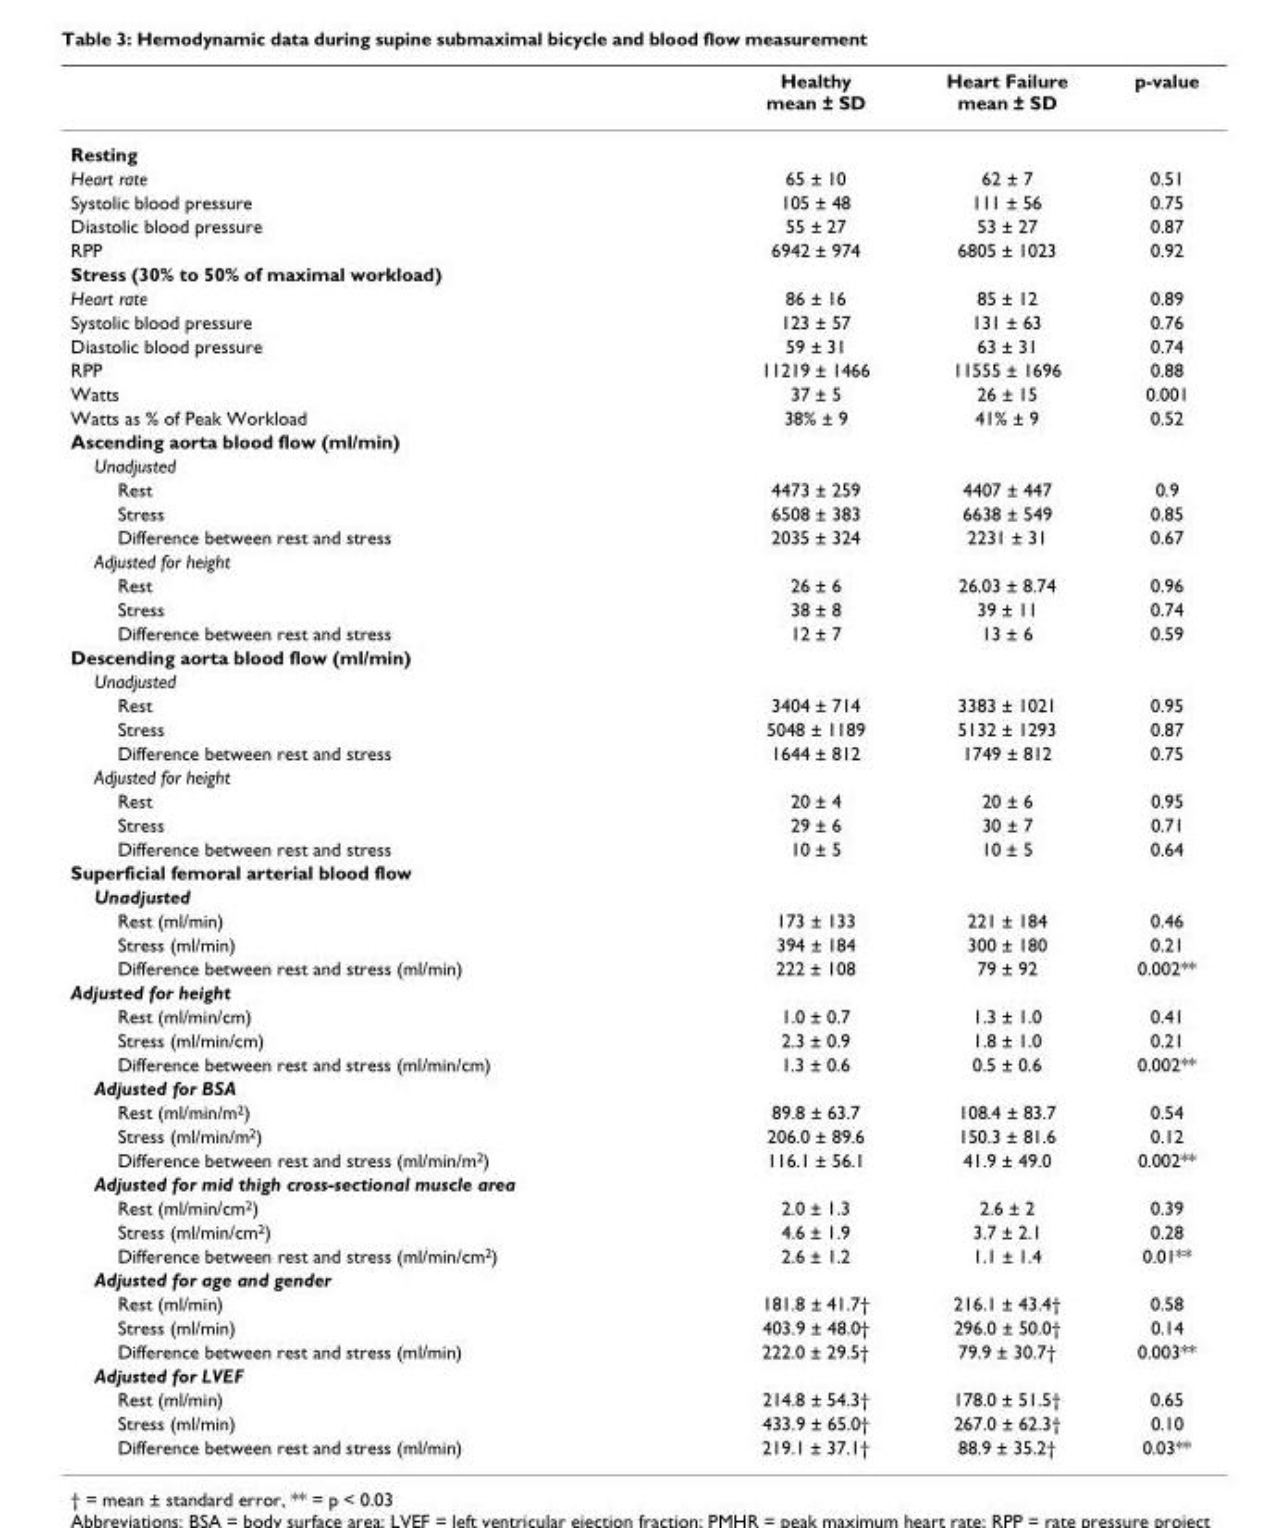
<table><thead><tr><td></td><td>Healthy mean ± SD</td><td>Heart Failure mean ± SD</td><td>p-value</td></tr></thead><tbody><tr><td colspan="4">Resting</td></tr><tr><td>Heart rate</td><td>65 ± 10</td><td>62 ± 7</td><td>0.51</td></tr><tr><td>Systolic blood pressure</td><td>105 ± 48</td><td>111 ± 56</td><td>0.75</td></tr><tr><td>Diastolic blood pressure</td><td>55 ± 27</td><td>53 ± 27</td><td>0.87</td></tr><tr><td>RPP</td><td>6942 ± 974</td><td>6805 ± 1023</td><td>0.92</td></tr><tr><td colspan="4">Stress (30% to 50% of maximal workload)</td></tr><tr><td>Heart rate</td><td>86 ± 16</td><td>85 ± 12</td><td>0.89</td></tr><tr><td>Systolic blood pressure</td><td>123 ± 57</td><td>131 ± 63</td><td>0.76</td></tr><tr><td>Diastolic blood pressure</td><td>59 ± 31</td><td>63 ± 31</td><td>0.74</td></tr><tr><td>RPP</td><td>11219 ± 1466</td><td>11555 ± 1696</td><td>0.88</td></tr><tr><td>Watts</td><td>37 ± 5</td><td>26 ± 15</td><td>0.001</td></tr><tr><td>Watts as % of Peak Workload</td><td>38% ± 9</td><td>41% ± 9</td><td>0.52</td></tr><tr><td colspan="4">Ascending aorta blood flow (ml/min)</td></tr><tr><td colspan="4">Unadjusted</td></tr><tr><td>Rest</td><td>4473 ± 259</td><td>4407 ± 447</td><td>0.9</td></tr><tr><td>Stress</td><td>6508 ± 383</td><td>6638 ± 549</td><td>0.85</td></tr><tr><td>Difference between rest and stress</td><td>2035 ± 324</td><td>2231 ± 31</td><td>0.67</td></tr><tr><td colspan="4">Adjusted for height</td></tr><tr><td>Rest</td><td>26 ± 6</td><td>26.03 ± 8.74</td><td>0.96</td></tr><tr><td>Stress</td><td>38 ± 8</td><td>39 ± 11</td><td>0.74</td></tr><tr><td>Difference between rest and stress</td><td>12 ± 7</td><td>13 ± 6</td><td>0.59</td></tr><tr><td colspan="4">Descending aorta blood flow (ml/min)</td></tr><tr><td colspan="4">Unadjusted</td></tr><tr><td>Rest</td><td>3404 ± 714</td><td>3383 ± 1021</td><td>0.95</td></tr><tr><td>Stress</td><td>5048 ± 1189</td><td>5132 ± 1293</td><td>0.87</td></tr><tr><td>Difference between rest and stress</td><td>1644 ± 812</td><td>1749 ± 812</td><td>0.75</td></tr><tr><td colspan="4">Adjusted for height</td></tr><tr><td>Rest</td><td>20 ± 4</td><td>20 ± 6</td><td>0.95</td></tr><tr><td>Stress</td><td>29 ± 6</td><td>30 ± 7</td><td>0.71</td></tr><tr><td>Difference between rest and stress</td><td>10 ± 5</td><td>10 ± 5</td><td>0.64</td></tr><tr><td colspan="4">Superficial femoral arterial blood flow</td></tr><tr><td colspan="4">Unadjusted</td></tr><tr><td>Rest (ml/min)</td><td>173 ± 133</td><td>221 ± 184</td><td>0.46</td></tr><tr><td>Stress (ml/min)</td><td>394 ± 184</td><td>300 ± 180</td><td>0.21</td></tr><tr><td>Difference between rest and stress (ml/min)</td><td>222 ± 108</td><td>79 ± 92</td><td>0.002**</td></tr><tr><td colspan="4">Adjusted for height</td></tr><tr><td>Rest (ml/min/cm)</td><td>1.0 ± 0.7</td><td>1.3 ± 1.0</td><td>0.41</td></tr><tr><td>Stress (ml/min/cm)</td><td>2.3 ± 0.9</td><td>1.8 ± 1.0</td><td>0.21</td></tr><tr><td>Difference between rest and stress (ml/min/cm)</td><td>1.3 ± 0.6</td><td>0.5 ± 0.6</td><td>0.002**</td></tr><tr><td colspan="4">Adjusted for BSA</td></tr><tr><td>Rest (ml/min/m<sup>2</sup>)</td><td>89.8 ± 63.7</td><td>108.4 ± 83.7</td><td>0.54</td></tr><tr><td>Stress (ml/min/m<sup>2</sup>)</td><td>206.0 ± 89.6</td><td>150.3 ± 81.6</td><td>0.12</td></tr><tr><td>Difference between rest and stress (ml/min/m<sup>2</sup>)</td><td>116.1 ± 56.1</td><td>41.9 ± 49.0</td><td>0.002**</td></tr><tr><td colspan="4">Adjusted for mid thigh cross-sectional muscle area</td></tr><tr><td>Rest (ml/min/cm<sup>2</sup>)</td><td>2.0 ± 1.3</td><td>2.6 ± 2</td><td>0.39</td></tr><tr><td>Stress (ml/min/cm<sup>2</sup>)</td><td>4.6 ± 1.9</td><td>3.7 ± 2.1</td><td>0.28</td></tr><tr><td>Difference between rest and stress (ml/min/cm<sup>2</sup>)</td><td>2.6 ± 1.2</td><td>1.1 ± 1.4</td><td>0.01**</td></tr><tr><td colspan="4">Adjusted for age and gender</td></tr><tr><td>Rest (ml/min)</td><td>181.8 ± 41.7†</td><td>216.1 ± 43.4†</td><td>0.58</td></tr><tr><td>Stress (ml/min)</td><td>403.9 ± 48.0†</td><td>296.0 ± 50.0†</td><td>0.14</td></tr><tr><td>Difference between rest and stress (ml/min)</td><td>222.0 ± 29.5†</td><td>79.9 ± 30.7†</td><td>0.003**</td></tr><tr><td colspan="4">Adjusted for LVEF</td></tr><tr><td>Rest (ml/min)</td><td>214.8 ± 54.3†</td><td>178.0 ± 51.5†</td><td>0.65</td></tr><tr><td>Stress (ml/min)</td><td>433.9 ± 65.0†</td><td>267.0 ± 62.3†</td><td>0.10</td></tr><tr><td>Difference between rest and stress (ml/min)</td><td>219.1 ± 37.1†</td><td>88.9 ± 35.2†</td><td>0.03**</td></tr></tbody></table>